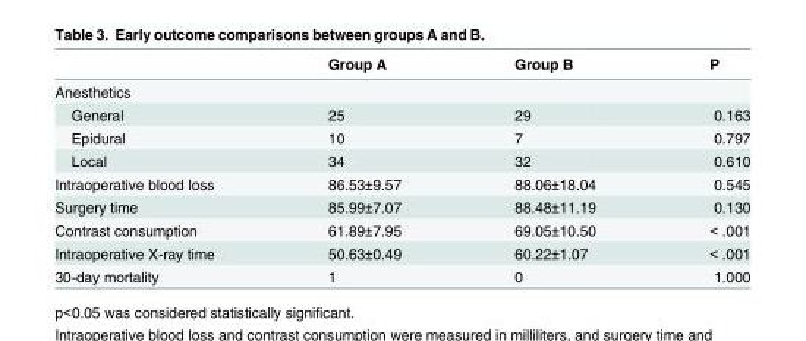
<table><thead><tr><td></td><td>Group A</td><td>Group B</td><td>P</td></tr></thead><tbody><tr><td colspan="4">Anesthetics</td></tr><tr><td>General</td><td>25</td><td>29</td><td>0.163</td></tr><tr><td>Epidural</td><td>10</td><td>7</td><td>0.797</td></tr><tr><td>Local</td><td>34</td><td>32</td><td>0.610</td></tr><tr><td>Intraoperative blood loss</td><td>86.53±9.57</td><td>88.06±18.04</td><td>0.545</td></tr><tr><td>Surgery time</td><td>85.99±7.07</td><td>88.48±11.19</td><td>0.130</td></tr><tr><td>Contrast consumption</td><td>61.89±7.95</td><td>69.05±10.50</td><td>&lt; .001</td></tr><tr><td>Intraoperative X-ray time</td><td>50.63±0.49</td><td>60.22±1.07</td><td>&lt; .001</td></tr><tr><td>30-day mortality</td><td>1</td><td>0</td><td>1.000</td></tr></tbody></table>